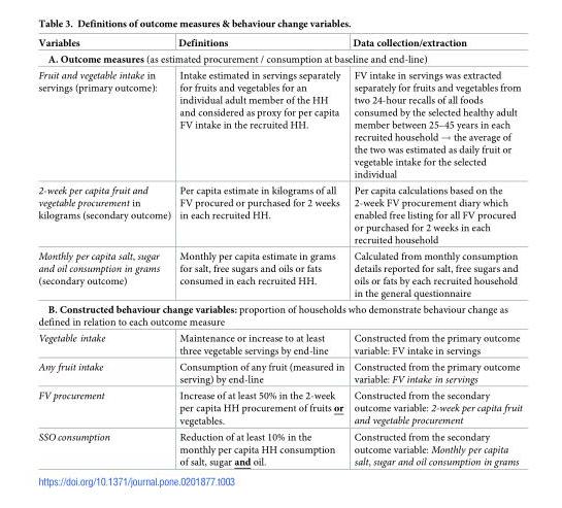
<table><thead><tr><td>Variables</td><td>Definitions</td><td>Data collection/extraction</td></tr></thead><tbody><tr><td colspan="3">A. Outcome measures (as estimated procurement / consumption at baseline and end-line)</td></tr><tr><td>Fruit and vegetable intake in servings (primary outcome):</td><td>Intake estimated in servings separately for fruits and vegetables for an individual adult member of the HH and considered as proxy for per capita FV intake in the recruited HH.</td><td>FV intake in servings was extracted separately for fruits and vegetables from two 24-hour recalls of all foods consumed by the selected healthy adult member between 25–45 years in each recruited household → the average of the two was estimated as daily fruit or vegetable intake for the selected individual</td></tr><tr><td>2-week per capita fruit and vegetable procurement in kilograms (secondary outcome)</td><td>Per capita estimate in kilograms of all FV procured or purchased for 2 weeks in each recruited HH.</td><td>Per capita calculations based on the 2-week FV procurement diary which enabled free listing for all FV procured or purchased for 2 weeks in each recruited household</td></tr><tr><td>Monthly per capita salt, sugar and oil consumption in grams (secondary outcome)</td><td>Monthly per capita estimate in grams for salt, free sugars and oils or fats consumed in each recruited HH.</td><td>Calculated from monthly consumption details reported for salt, free sugars and oils or fats by each recruited household in the general questionnaire</td></tr><tr><td colspan="3">B. Constructed behaviour change variables: proportion of households who demonstrate behaviour change as defined in relation to each outcome measure</td></tr><tr><td>Vegetable intake</td><td>Maintenance or increase to at least three vegetable servings by end-line</td><td>Constructed from the primary outcome variable: FV intake in servings</td></tr><tr><td>Any fruit intake</td><td>Consumption of any fruit (measured in serving) by end-line</td><td>Constructed from the primary outcome variable: FV intake in servings</td></tr><tr><td>FV procurement</td><td>Increase of at least 50% in the 2-week per capita HH procurement of fruits or vegetables.</td><td>Constructed from the secondary outcome variable: 2-week per capita fruit and vegetable procurement</td></tr><tr><td>SSO consumption</td><td>Reduction of at least 10% in the monthly per capita HH consumption of salt, sugar and oil.</td><td>Constructed from the secondary outcome variable: Monthly per capita salt, sugar and oil consumption in grams</td></tr></tbody></table>